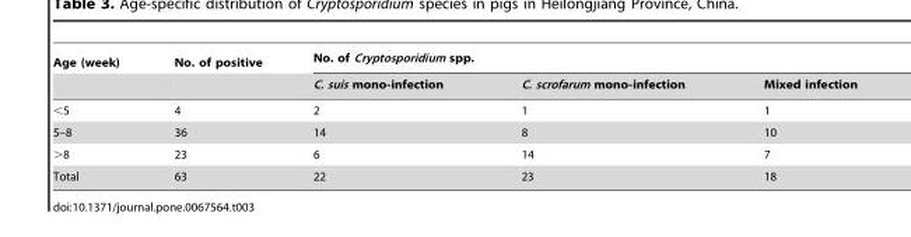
<table><thead><tr><td rowspan="2">Age (week)</td><td rowspan="2">No. of positive</td><td colspan="3">No. of Cryptosporidium spp.</td></tr><tr><td>C. suis mono-infection</td><td>C. scrofarum mono-infection</td><td>Mixed infection</td></tr></thead><tbody><tr><td>&lt;5</td><td>4</td><td>2</td><td>1</td><td>1</td></tr><tr><td>5–8</td><td>36</td><td>14</td><td>8</td><td>10</td></tr><tr><td>&gt;8</td><td>23</td><td>6</td><td>14</td><td>7</td></tr><tr><td>Total</td><td>63</td><td>22</td><td>23</td><td>18</td></tr></tbody></table>